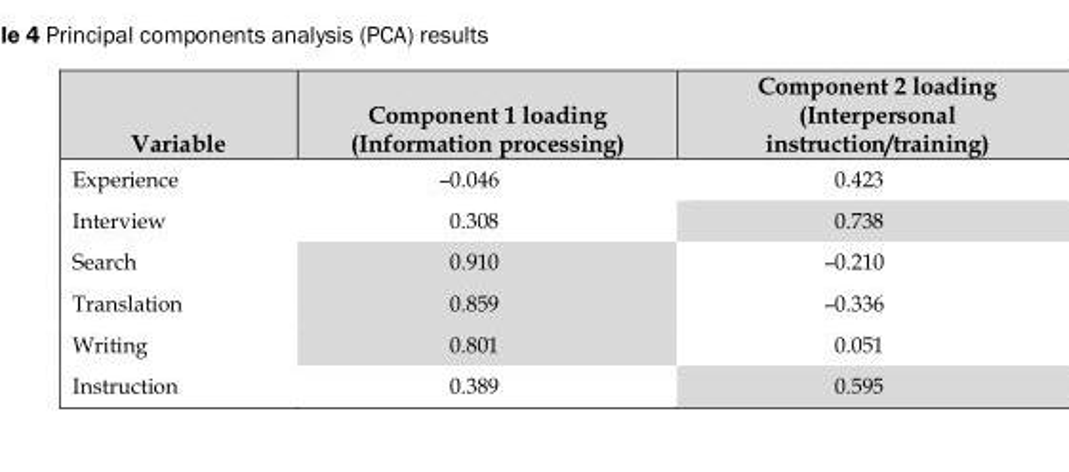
<table><thead><tr><td>Variable</td><td>Component 1 loading (Information processing)</td><td>Component 2 loading (Interpersonal instruction/training)</td></tr></thead><tbody><tr><td>Experience</td><td>–0.046</td><td>0.423</td></tr><tr><td>Interview</td><td>0.308</td><td>0.738</td></tr><tr><td>Search</td><td>0.910</td><td>–0.210</td></tr><tr><td>Translation</td><td>0.859</td><td>–0.336</td></tr><tr><td>Writing</td><td>0.801</td><td>0.051</td></tr><tr><td>Instruction</td><td>0.389</td><td>0.595</td></tr></tbody></table>